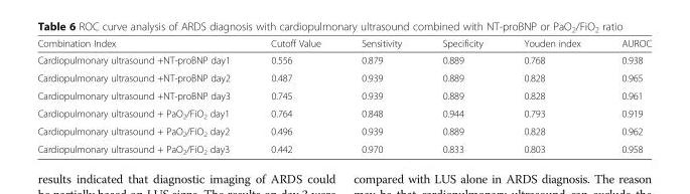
<table><thead><tr><td>Combination Index</td><td>Cutoff Value</td><td>Sensitivity</td><td>Specificity</td><td>Youden index</td><td>AUROC</td></tr></thead><tbody><tr><td>Cardiopulmonary ultrasound +NT-proBNP day1</td><td>0.556</td><td>0.879</td><td>0.889</td><td>0.768</td><td>0.938</td></tr><tr><td>Cardiopulmonary ultrasound +NT-proBNP day2</td><td>0.487</td><td>0.939</td><td>0.889</td><td>0.828</td><td>0.965</td></tr><tr><td>Cardiopulmonary ultrasound +NT-proBNP day3</td><td>0.745</td><td>0.939</td><td>0.889</td><td>0.828</td><td>0.961</td></tr><tr><td>Cardiopulmonary ultrasound + PaO<sub>2</sub>/FiO<sub>2</sub> day1</td><td>0.764</td><td>0.848</td><td>0.944</td><td>0.793</td><td>0.919</td></tr><tr><td>Cardiopulmonary ultrasound + PaO<sub>2</sub>/FiO<sub>2</sub> day2</td><td>0.496</td><td>0.939</td><td>0.889</td><td>0.828</td><td>0.962</td></tr><tr><td>Cardiopulmonary ultrasound + PaO<sub>2</sub>/FiO<sub>2</sub> day3</td><td>0.442</td><td>0.970</td><td>0.833</td><td>0.803</td><td>0.958</td></tr></tbody></table>